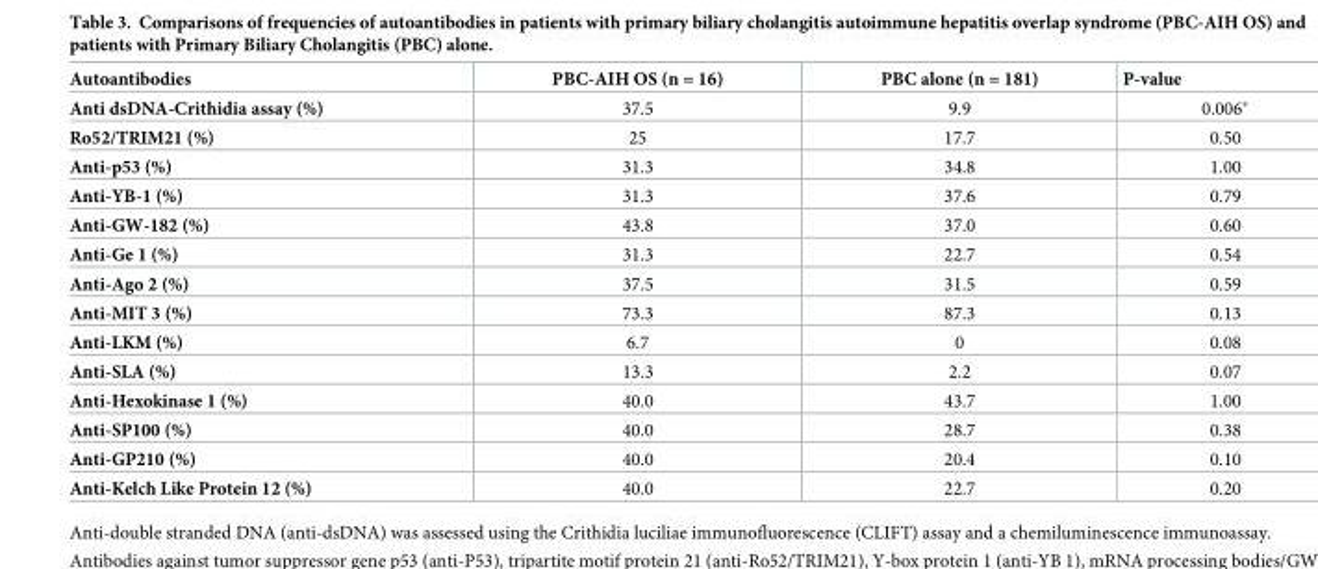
<table><thead><tr><td>Autoantibodies</td><td>PBC-AIH OS (n = 16)</td><td>PBC alone (n = 181)</td><td>P-value</td></tr></thead><tbody><tr><td>Anti dsDNA-Crithidia assay (%)</td><td>37.5</td><td>9.9</td><td>0.006*</td></tr><tr><td>Ro52/TRIM21 (%)</td><td>25</td><td>17.7</td><td>0.50</td></tr><tr><td>Anti-p53 (%)</td><td>31.3</td><td>34.8</td><td>1.00</td></tr><tr><td>Anti-YB-1 (%)</td><td>31.3</td><td>37.6</td><td>0.79</td></tr><tr><td>Anti-GW-182 (%)</td><td>43.8</td><td>37.0</td><td>0.60</td></tr><tr><td>Anti-Ge 1 (%)</td><td>31.3</td><td>22.7</td><td>0.54</td></tr><tr><td>Anti-Ago 2 (%)</td><td>37.5</td><td>31.5</td><td>0.59</td></tr><tr><td>Anti-MIT 3 (%)</td><td>73.3</td><td>87.3</td><td>0.13</td></tr><tr><td>Anti-LKM (%)</td><td>6.7</td><td>0</td><td>0.08</td></tr><tr><td>Anti-SLA (%)</td><td>13.3</td><td>2.2</td><td>0.07</td></tr><tr><td>Anti-Hexokinase 1 (%)</td><td>40.0</td><td>43.7</td><td>1.00</td></tr><tr><td>Anti-SP100 (%)</td><td>40.0</td><td>28.7</td><td>0.38</td></tr><tr><td>Anti-GP210 (%)</td><td>40.0</td><td>20.4</td><td>0.10</td></tr><tr><td>Anti-Kelch Like Protein 12 (%)</td><td>40.0</td><td>22.7</td><td>0.20</td></tr></tbody></table>